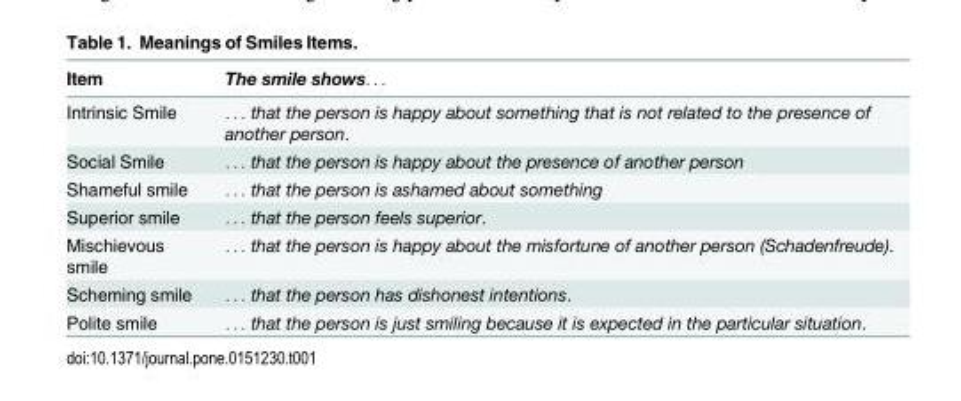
<table><thead><tr><td>Item</td><td>The smile shows. . .</td></tr></thead><tbody><tr><td>Intrinsic Smile</td><td>. . . that the person is happy about something that is not related to the presence of another person.</td></tr><tr><td>Social Smile</td><td>. . . that the person is happy about the presence of another person</td></tr><tr><td>Shameful smile</td><td>. . . that the person is ashamed about something</td></tr><tr><td>Superior smile</td><td>. . . that the person feels superior.</td></tr><tr><td>Mischievous smile</td><td>. . . that the person is happy about the misfortune of another person (Schadenfreude).</td></tr><tr><td>Scheming smile</td><td>. . . that the person has dishonest intentions.</td></tr><tr><td>Polite smile</td><td>. . . that the person is just smiling because it is expected in the particular situation.</td></tr></tbody></table>